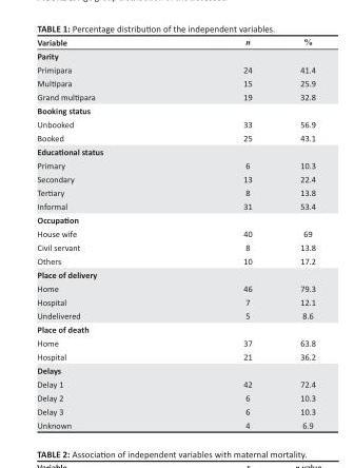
<table><thead><tr><td>Variable</td><td>n</td><td>%</td></tr></thead><tbody><tr><td colspan="3">Parity</td></tr><tr><td>Primipara</td><td>24</td><td>41.4</td></tr><tr><td>Multipara</td><td>15</td><td>25.9</td></tr><tr><td>Grand multipara</td><td>19</td><td>32.8</td></tr><tr><td colspan="3">Booking status</td></tr><tr><td>Unbooked</td><td>33</td><td>56.9</td></tr><tr><td>Booked</td><td>25</td><td>43.1</td></tr><tr><td colspan="3">Educational status</td></tr><tr><td>Primary</td><td>6</td><td>10.3</td></tr><tr><td>Secondary</td><td>13</td><td>22.4</td></tr><tr><td>Tertiary</td><td>8</td><td>13.8</td></tr><tr><td>Informal</td><td>31</td><td>53.4</td></tr><tr><td colspan="3">Occupation</td></tr><tr><td>House wife</td><td>40</td><td>69</td></tr><tr><td>Civil servant</td><td>8</td><td>13.8</td></tr><tr><td>Others</td><td>10</td><td>17.2</td></tr><tr><td colspan="3">Place of delivery</td></tr><tr><td>Home</td><td>46</td><td>79.3</td></tr><tr><td>Hospital</td><td>7</td><td>12.1</td></tr><tr><td>Undelivered</td><td>5</td><td>8.6</td></tr><tr><td colspan="3">Place of death</td></tr><tr><td>Home</td><td>37</td><td>63.8</td></tr><tr><td>Hospital</td><td>21</td><td>36.2</td></tr><tr><td colspan="3">Delays</td></tr><tr><td>Delay 1</td><td>42</td><td>72.4</td></tr><tr><td>Delay 2</td><td>6</td><td>10.3</td></tr><tr><td>Delay 3</td><td>6</td><td>10.3</td></tr><tr><td>Unknown</td><td>4</td><td>6.9</td></tr></tbody></table>